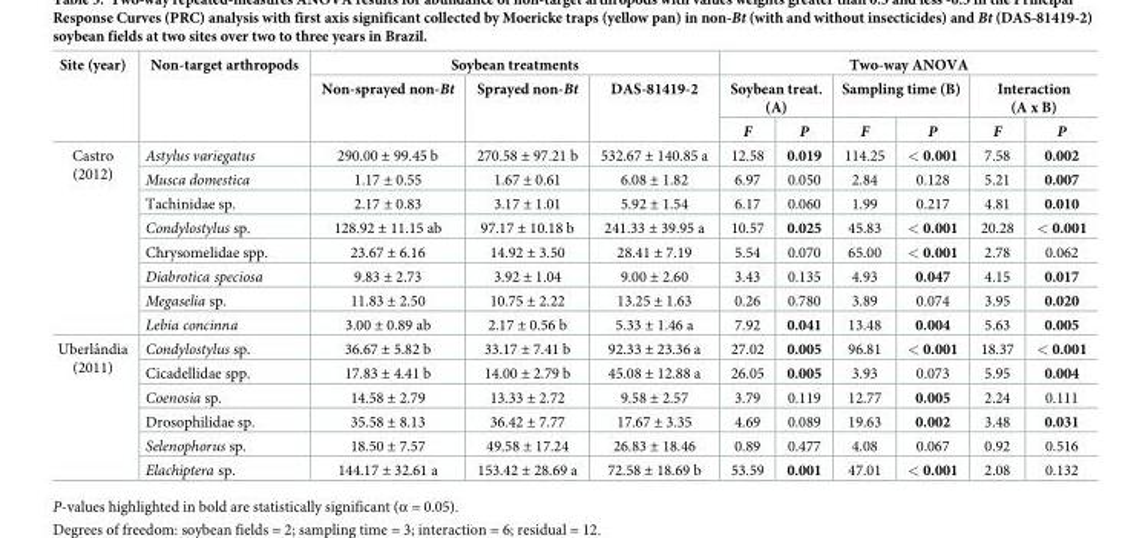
<table><thead><tr><td rowspan="3">Site (year)</td><td rowspan="3">Non-target arthropods</td><td colspan="3">Soybean treatments</td><td colspan="6">Two-way ANOVA</td></tr><tr><td rowspan="2">Non-sprayed non-Bt</td><td rowspan="2">Sprayed non-Bt</td><td rowspan="2">DAS-81419-2</td><td colspan="2">Soybean treat. (A)</td><td colspan="2">Sampling time (B)</td><td colspan="2">Interaction (A x B)</td></tr><tr><td>F</td><td>P</td><td>F</td><td>P</td><td>F</td><td>P</td></tr></thead><tbody><tr><td rowspan="8">Castro (2012)</td><td>Astylus variegatus</td><td>290.00 ± 99.45 b</td><td>270.58 ± 97.21 b</td><td>532.67 ± 140.85 a</td><td>12.58</td><td>0.019</td><td>114.25</td><td>&lt; 0.001</td><td>7.58</td><td>0.002</td></tr><tr><td>Musca domestica</td><td>1.17 ± 0.55</td><td>1.67 ± 0.61</td><td>6.08 ± 1.82</td><td>6.97</td><td>0.050</td><td>2.84</td><td>0.128</td><td>5.21</td><td>0.007</td></tr><tr><td>Tachinidae sp.</td><td>2.17 ± 0.83</td><td>3.17 ± 1.01</td><td>5.92 ± 1.54</td><td>6.17</td><td>0.060</td><td>1.99</td><td>0.217</td><td>4.81</td><td>0.010</td></tr><tr><td>Condylostylus sp.</td><td>128.92 ± 11.15 ab</td><td>97.17 ± 10.18 b</td><td>241.33 ± 39.95 a</td><td>10.57</td><td>0.025</td><td>45.83</td><td>&lt; 0.001</td><td>20.28</td><td>&lt; 0.001</td></tr><tr><td>Chrysomelidae spp.</td><td>23.67 ± 6.16</td><td>14.92 ± 3.50</td><td>28.41 ± 7.19</td><td>5.54</td><td>0.070</td><td>65.00</td><td>&lt; 0.001</td><td>2.78</td><td>0.062</td></tr><tr><td>Diabrotica speciosa</td><td>9.83 ± 2.73</td><td>3.92 ± 1.04</td><td>9.00 ± 2.60</td><td>3.43</td><td>0.135</td><td>4.93</td><td>0.047</td><td>4.15</td><td>0.017</td></tr><tr><td>Megaselia sp.</td><td>11.83 ± 2.50</td><td>10.75 ± 2.22</td><td>13.25 ± 1.63</td><td>0.26</td><td>0.780</td><td>3.89</td><td>0.074</td><td>3.95</td><td>0.020</td></tr><tr><td>Lebia concinna</td><td>3.00 ± 0.89 ab</td><td>2.17 ± 0.56 b</td><td>5.33 ± 1.46 a</td><td>7.92</td><td>0.041</td><td>13.48</td><td>0.004</td><td>5.63</td><td>0.005</td></tr><tr><td rowspan="6">Uberlaˆndia (2011)</td><td>Condylostylus sp.</td><td>36.67 ± 5.82 b</td><td>33.17 ± 7.41 b</td><td>92.33 ± 23.36 a</td><td>27.02</td><td>0.005</td><td>96.81</td><td>&lt; 0.001</td><td>18.37</td><td>&lt; 0.001</td></tr><tr><td>Cicadellidae spp.</td><td>17.83 ± 4.41 b</td><td>14.00 ± 2.79 b</td><td>45.08 ± 12.88 a</td><td>26.05</td><td>0.005</td><td>3.93</td><td>0.073</td><td>5.95</td><td>0.004</td></tr><tr><td>Coenosia sp.</td><td>14.58 ± 2.79</td><td>13.33 ± 2.72</td><td>9.58 ± 2.57</td><td>3.79</td><td>0.119</td><td>12.77</td><td>0.005</td><td>2.24</td><td>0.111</td></tr><tr><td>Drosophilidae sp.</td><td>35.58 ± 8.13</td><td>36.42 ± 7.77</td><td>17.67 ± 3.35</td><td>4.69</td><td>0.089</td><td>19.63</td><td>0.002</td><td>3.48</td><td>0.031</td></tr><tr><td>Selenophorus sp.</td><td>18.50 ± 7.57</td><td>49.58 ± 17.24</td><td>26.83 ± 18.46</td><td>0.89</td><td>0.477</td><td>4.08</td><td>0.067</td><td>0.92</td><td>0.516</td></tr><tr><td>Elachiptera sp.</td><td>144.17 ± 32.61 a</td><td>153.42 ± 28.69 a</td><td>72.58 ± 18.69 b</td><td>53.59</td><td>0.001</td><td>47.01</td><td>&lt; 0.001</td><td>2.08</td><td>0.132</td></tr></tbody></table>